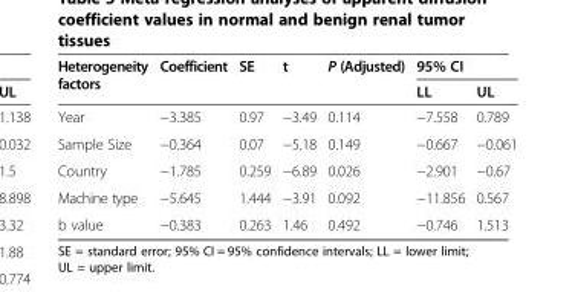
<table><thead><tr><td rowspan="2">Heterogeneity factors</td><td rowspan="2">Coefficient</td><td rowspan="2">SE</td><td rowspan="2">t</td><td rowspan="2">P (Adjusted)</td><td colspan="2">95% CI</td></tr><tr><td>LL</td><td>UL</td></tr></thead><tbody><tr><td>Year</td><td>−3.385</td><td>0.97</td><td>−3.49</td><td>0.114</td><td>−7.558</td><td>0.789</td></tr><tr><td>Sample Size</td><td>−0.364</td><td>0.07</td><td>−5.18</td><td>0.149</td><td>−0.667</td><td>−0.061</td></tr><tr><td>Country</td><td>−1.785</td><td>0.259</td><td>−6.89</td><td>0.026</td><td>−2.901</td><td>−0.67</td></tr><tr><td>Machine type</td><td>−5.645</td><td>1.444</td><td>−3.91</td><td>0.092</td><td>−11.856</td><td>0.567</td></tr><tr><td>b value</td><td>−0.383</td><td>0.263</td><td>1.46</td><td>0.492</td><td>−0.746</td><td>1.513</td></tr></tbody></table>